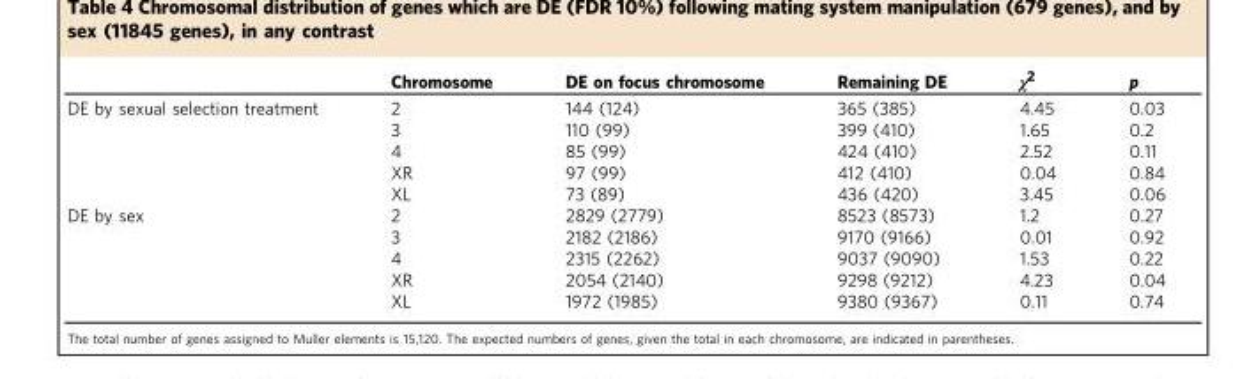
<table><thead><tr><td></td><td>Chromosome</td><td>DE on focus chromosome</td><td>Remaining DE</td><td>χ<sup>2</sup></td><td>p</td></tr></thead><tbody><tr><td rowspan="5">DE by sexual selection treatment</td><td>2</td><td>144 (124)</td><td>365 (385)</td><td>4.45</td><td>0.03</td></tr><tr><td>3</td><td>110 (99)</td><td>399 (410)</td><td>1.65</td><td>0.2</td></tr><tr><td>4</td><td>85 (99)</td><td>424 (410)</td><td>2.52</td><td>0.11</td></tr><tr><td>XR</td><td>97 (99)</td><td>412 (410)</td><td>0.04</td><td>0.84</td></tr><tr><td>XL</td><td>73 (89)</td><td>436 (420)</td><td>3.45</td><td>0.06</td></tr><tr><td rowspan="5">DE by sex</td><td>2</td><td>2829 (2779)</td><td>8523 (8573)</td><td>1.2</td><td>0.27</td></tr><tr><td>3</td><td>2182 (2186)</td><td>9170 (9166)</td><td>0.01</td><td>0.92</td></tr><tr><td>4</td><td>2315 (2262)</td><td>9037 (9090)</td><td>1.53</td><td>0.22</td></tr><tr><td>XR</td><td>2054 (2140)</td><td>9298 (9212)</td><td>4.23</td><td>0.04</td></tr><tr><td>XL</td><td>1972 (1985)</td><td>9380 (9367)</td><td>0.11</td><td>0.74</td></tr></tbody></table>